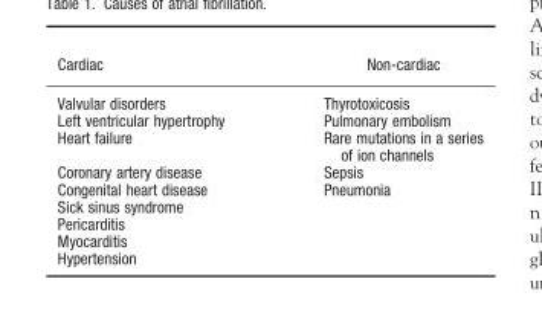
<table><thead><tr><td>Cardiac</td><td>Non-cardiac</td></tr></thead><tbody><tr><td>Valvular disorders</td><td>Thyrotoxicosis</td></tr><tr><td>Left ventricular hypertrophy</td><td>Pulmonary embolism</td></tr><tr><td>Heart failure</td><td>Rare mutations in a series of ion channels</td></tr><tr><td>Coronary artery disease</td><td>Sepsis</td></tr><tr><td>Congenital heart disease</td><td>Pneumonia</td></tr><tr><td colspan="2">Sick sinus syndrome</td></tr><tr><td colspan="2">Pericarditis</td></tr><tr><td colspan="2">Myocarditis</td></tr><tr><td>Hypertension</td><td></td></tr></tbody></table>